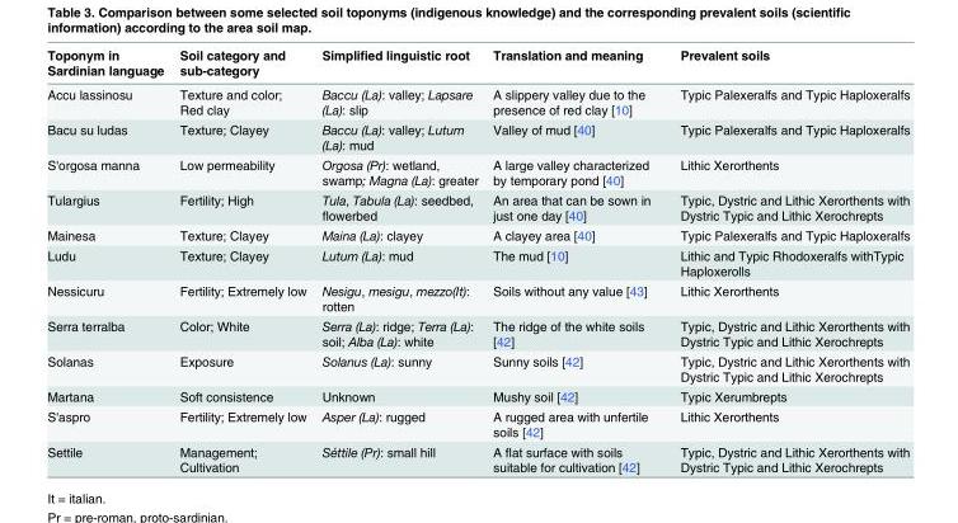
<table><thead><tr><td>Toponym in Sardinian language</td><td>Soil category and sub-category</td><td>Simplified linguistic root</td><td>Translation and meaning</td><td>Prevalent soils</td></tr></thead><tbody><tr><td>Accu lassinosu</td><td>Texture and color; Red clay</td><td>Baccu (La): valley; Lapsare (La): slip</td><td>A slippery valley due to the presence of red clay [10]</td><td>Typic Palexeralfs and Typic Haploxeralfs</td></tr><tr><td>Bacu su ludas</td><td>Texture; Clayey</td><td>Baccu (La): valley; Lutum (La): mud</td><td>Valley of mud [40]</td><td>Typic Palexeralfs and Typic Haploxeralfs</td></tr><tr><td>S&#x27;orgosa manna</td><td>Low permeability</td><td>Orgosa (Pr): wetland, swamp; Magna (La): greater</td><td>A large valley characterized by temporary pond [40]</td><td>Lithic Xerorthents</td></tr><tr><td>Tulargius</td><td>Fertility; High</td><td>Tula, Tabula (La): seedbed, flowerbed</td><td>An area that can be sown in just one day [40]</td><td>Typic, Dystric and Lithic Xerorthents with Dystric Typic and Lithic Xerochrepts</td></tr><tr><td>Mainesa</td><td>Texture; Clayey</td><td>Maina (La): clayey</td><td>A clayey area [40]</td><td>Typic Palexeralfs and Typic Haploxeralfs</td></tr><tr><td>Ludu</td><td>Texture; Clayey</td><td>Lutum (La): mud</td><td>The mud [10]</td><td>Lithic and Typic Rhodoxeralfs withTypic Haploxerolls</td></tr><tr><td>Nessicuru</td><td>Fertility; Extremely low</td><td>Nesigu, mesigu, mezzo(It): rotten</td><td>Soils without any value [43]</td><td>Lithic Xerorthents</td></tr><tr><td>Serra terralba</td><td>Color; White</td><td>Serra (La): ridge; Terra (La): soil; Alba (La): white</td><td>The ridge of the white soils [42]</td><td>Typic, Dystric and Lithic Xerorthents with Dystric Typic and Lithic Xerochrepts</td></tr><tr><td>Solanas</td><td>Exposure</td><td>Solanus (La): sunny</td><td>Sunny soils [42]</td><td>Typic, Dystric and Lithic Xerorthents with Dystric Typic and Lithic Xerochrepts</td></tr><tr><td>Martana</td><td>Soft consistence</td><td>Unknown</td><td>Mushy soil [42]</td><td>Typic Xerumbrepts</td></tr><tr><td>S&#x27;aspro</td><td>Fertility; Extremely low</td><td>Asper (La): rugged</td><td>A rugged area with unfertile soils [42]</td><td>Lithic Xerorthents</td></tr><tr><td>Settile</td><td>Management; Cultivation</td><td>Séttile (Pr): small hill</td><td>A flat surface with soils suitable for cultivation [42]</td><td>Typic, Dystric and Lithic Xerorthents with Dystric Typic and Lithic Xerochrepts</td></tr></tbody></table>